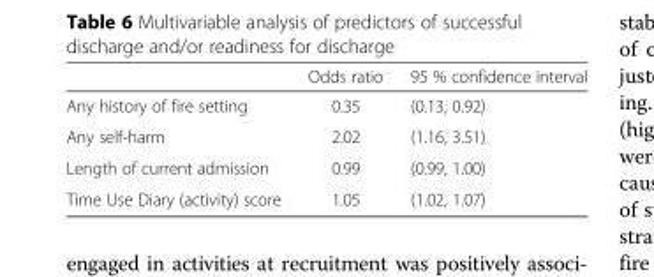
<table><thead><tr><td></td><td>Odds ratio</td><td>95 % confidence interval</td></tr></thead><tbody><tr><td>Any history of fire setting</td><td>0.35</td><td>(0.13, 0.92)</td></tr><tr><td>Any self-harm</td><td>2.02</td><td>(1.16, 3.51)</td></tr><tr><td>Length of current admission</td><td>0.99</td><td>(0.99, 1.00)</td></tr><tr><td>Time Use Diary (activity) score</td><td>1.05</td><td>(1.02, 1.07)</td></tr></tbody></table>